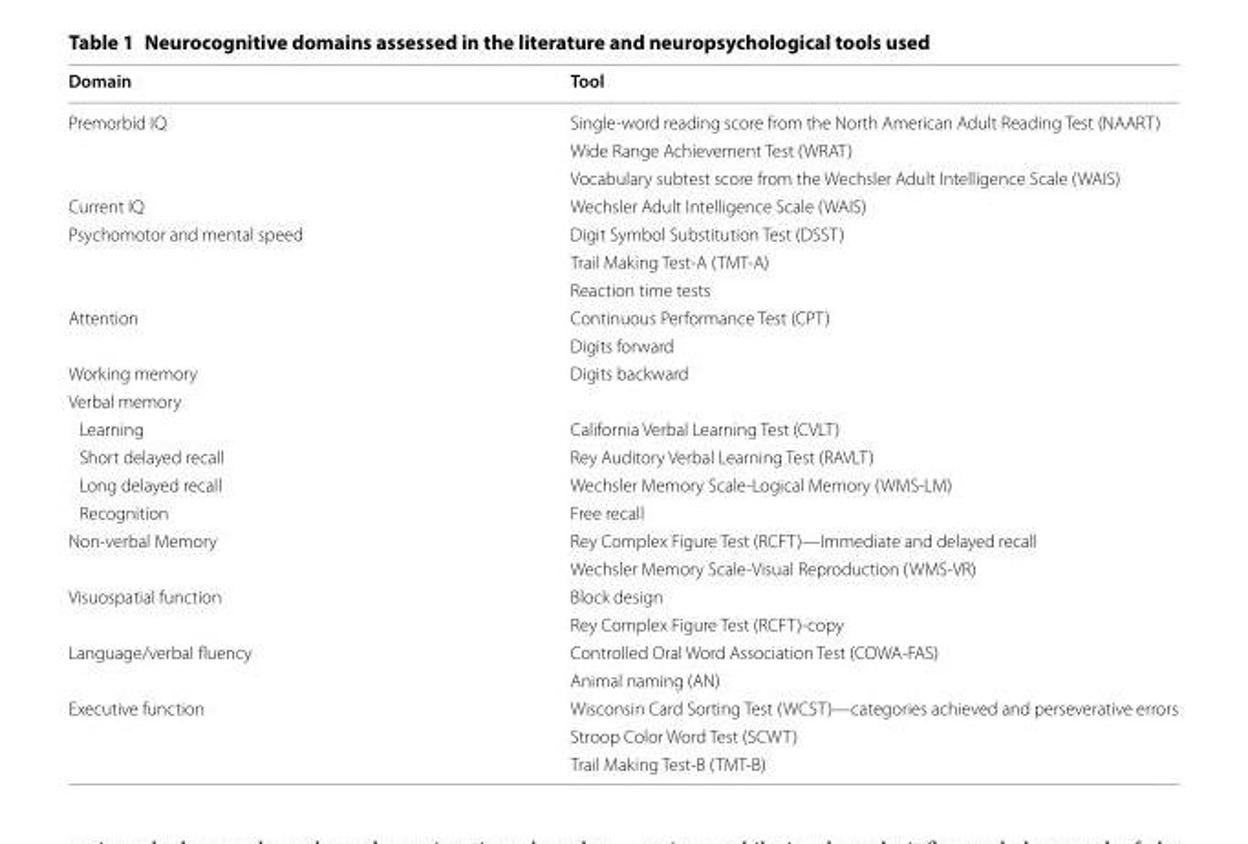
<table><thead><tr><td>Domain</td><td>Tool</td></tr></thead><tbody><tr><td rowspan="3">Premorbid IQ</td><td>Single-word reading score from the North American Adult Reading Test (NAART)</td></tr><tr><td>Wide Range Achievement Test (WRAT)</td></tr><tr><td>Vocabulary subtest score from the Wechsler Adult Intelligence Scale (WAIS)</td></tr><tr><td>Current IQ</td><td>Wechsler Adult Intelligence Scale (WAIS)</td></tr><tr><td rowspan="3">Psychomotor and mental speed</td><td>Digit Symbol Substitution Test (DSST)</td></tr><tr><td>Trail Making Test-A (TMT-A)</td></tr><tr><td>Reaction time tests</td></tr><tr><td rowspan="2">Attention</td><td>Continuous Performance Test (CPT)</td></tr><tr><td>Digits forward</td></tr><tr><td>Working memory</td><td>Digits backward</td></tr><tr><td colspan="2">Verbal memory</td></tr><tr><td>Learning</td><td>California Verbal Learning Test (CVLT)</td></tr><tr><td>Short delayed recall</td><td>Rey Auditory Verbal Learning Test (RAVLT)</td></tr><tr><td>Long delayed recall</td><td>Wechsler Memory Scale-Logical Memory (WMS-LM)</td></tr><tr><td>Recognition</td><td>Free recall</td></tr><tr><td rowspan="2">Non-verbal Memory</td><td>Rey Complex Figure Test (RCFT)—Immediate and delayed recall</td></tr><tr><td>Wechsler Memory Scale-Visual Reproduction (WMS-VR)</td></tr><tr><td rowspan="2">Visuospatial function</td><td>Block design</td></tr><tr><td>Rey Complex Figure Test (RCFT)-copy</td></tr><tr><td rowspan="2">Language/verbal fluency</td><td>Controlled Oral Word Association Test (COWA-FAS)</td></tr><tr><td>Animal naming (AN)</td></tr><tr><td rowspan="3">Executive function</td><td>Wisconsin Card Sorting Test (WCST)—categories achieved and perseverative errors</td></tr><tr><td>Stroop Color Word Test (SCWT)</td></tr><tr><td>Trail Making Test-B (TMT-B)</td></tr></tbody></table>